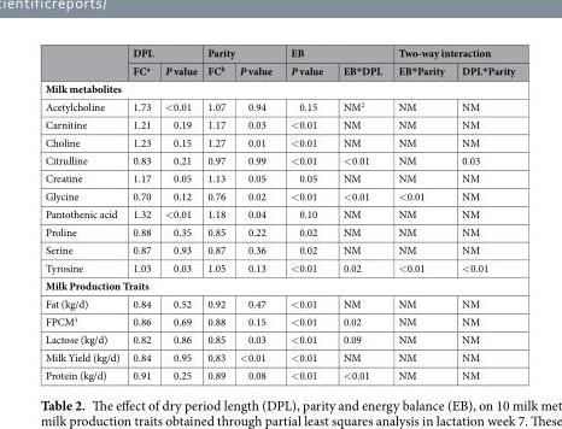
<table><thead><tr><td rowspan="2"></td><td colspan="2">DPL</td><td colspan="2">Parity</td><td colspan="2">EB</td><td colspan="2">Two-way interaction</td></tr><tr><td>FC<sup>a</sup></td><td>P value</td><td>FC<sup>b</sup></td><td>P value</td><td>P value</td><td>EB*DPL</td><td>EB*Parity</td><td>DPL*Parity</td></tr></thead><tbody><tr><td colspan="9">Milk metabolites</td></tr><tr><td>Acetylcholine</td><td>1.73</td><td>&lt;0.01</td><td>1.07</td><td>0.94</td><td>0.15</td><td>NM<sup>2</sup></td><td>NM</td><td>NM</td></tr><tr><td>Carnitine</td><td>1.21</td><td>0.19</td><td>1.17</td><td>0.03</td><td>&lt;0.01</td><td>NM</td><td>NM</td><td>NM</td></tr><tr><td>Choline</td><td>1.23</td><td>0.15</td><td>1.27</td><td>0.01</td><td>&lt;0.01</td><td>NM</td><td>NM</td><td>NM</td></tr><tr><td>Citrulline</td><td>0.83</td><td>0.21</td><td>0.97</td><td>0.99</td><td>&lt;0.01</td><td>&lt;0.01</td><td>NM</td><td>0.03</td></tr><tr><td>Creatine</td><td>1.17</td><td>0.05</td><td>1.13</td><td>0.05</td><td>0.05</td><td>NM</td><td>NM</td><td>NM</td></tr><tr><td>Glycine</td><td>0.70</td><td>0.12</td><td>0.76</td><td>0.02</td><td>&lt;0.01</td><td>&lt;0.01</td><td>&lt;0.01</td><td>NM</td></tr><tr><td>Pantothenic acid</td><td>1.32</td><td>&lt;0.01</td><td>1.18</td><td>0.04</td><td>0.10</td><td>NM</td><td>NM</td><td>NM</td></tr><tr><td>Proline</td><td>0.88</td><td>0.35</td><td>0.85</td><td>0.22</td><td>0.02</td><td>NM</td><td>NM</td><td>NM</td></tr><tr><td>Serine</td><td>0.87</td><td>0.93</td><td>0.87</td><td>0.36</td><td>0.02</td><td>NM</td><td>NM</td><td>NM</td></tr><tr><td>Tyrosine</td><td>1.03</td><td>0.03</td><td>1.05</td><td>0.13</td><td>&lt;0.01</td><td>0.02</td><td>&lt;0.01</td><td>&lt;0.01</td></tr><tr><td colspan="9">Milk Production Traits</td></tr><tr><td>Fat (kg/d)</td><td>0.84</td><td>0.52</td><td>0.92</td><td>0.47</td><td>&lt;0.01</td><td>NM</td><td>NM</td><td>NM</td></tr><tr><td>FPCM<sup>3</sup></td><td>0.86</td><td>0.69</td><td>0.88</td><td>0.15</td><td>&lt;0.01</td><td>0.02</td><td>NM</td><td>NM</td></tr><tr><td>Lactose (kg/d)</td><td>0.82</td><td>0.86</td><td>0.85</td><td>0.03</td><td>&lt;0.01</td><td>0.09</td><td>NM</td><td>NM</td></tr><tr><td>Milk Yield (kg/d)</td><td>0.84</td><td>0.95</td><td>0.83</td><td>&lt;0.01</td><td>&lt;0.01</td><td>NM</td><td>NM</td><td>NM</td></tr><tr><td>Protein (kg/d)</td><td>0.91</td><td>0.25</td><td>0.89</td><td>0.08</td><td>&lt;0.01</td><td>&lt;0.01</td><td>NM</td><td>NM</td></tr></tbody></table>